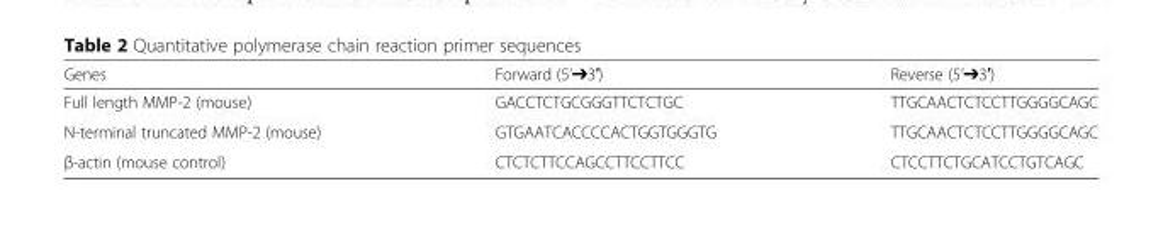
<table><thead><tr><td>Genes</td><td>Forward (5’➔3′)</td><td>Reverse (5’➔3′)</td></tr></thead><tbody><tr><td>Full length MMP-2 (mouse)</td><td>GACCTCTGCGGGTTCTCTGC</td><td>TTGCAACTCTCCTTGGGGCAGC</td></tr><tr><td>N-terminal truncated MMP-2 (mouse)</td><td>GTGAATCACCCCACTGGTGGGTG</td><td>TTGCAACTCTCCTTGGGGCAGC</td></tr><tr><td>β-actin (mouse control)</td><td>CTCTCTTCCAGCCTTCCTTCC</td><td>CTCCTTCTGCATCCTGTCAGC</td></tr></tbody></table>